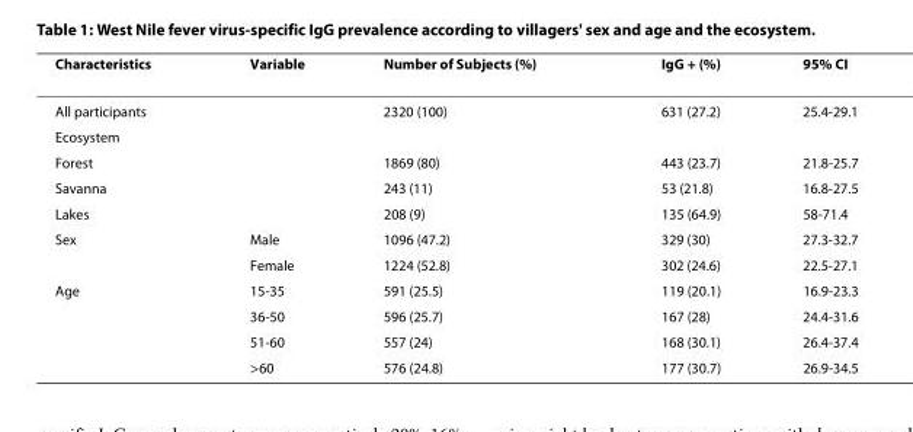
<table><thead><tr><td>Characteristics</td><td>Variable</td><td>Number of Subjects (%)</td><td>IgG + (%)</td><td>95% CI</td></tr></thead><tbody><tr><td>All participants</td><td></td><td>2320 (100)</td><td>631 (27.2)</td><td>25.4-29.1</td></tr><tr><td colspan="5">Ecosystem</td></tr><tr><td>Forest</td><td></td><td>1869 (80)</td><td>443 (23.7)</td><td>21.8-25.7</td></tr><tr><td>Savanna</td><td></td><td>243 (11)</td><td>53 (21.8)</td><td>16.8-27.5</td></tr><tr><td>Lakes</td><td></td><td>208 (9)</td><td>135 (64.9)</td><td>58-71.4</td></tr><tr><td rowspan="2">Sex</td><td>Male</td><td>1096 (47.2)</td><td>329 (30)</td><td>27.3-32.7</td></tr><tr><td>Female</td><td>1224 (52.8)</td><td>302 (24.6)</td><td>22.5-27.1</td></tr><tr><td rowspan="4">Age</td><td>15-35</td><td>591 (25.5)</td><td>119 (20.1)</td><td>16.9-23.3</td></tr><tr><td>36-50</td><td>596 (25.7)</td><td>167 (28)</td><td>24.4-31.6</td></tr><tr><td>51-60</td><td>557 (24)</td><td>168 (30.1)</td><td>26.4-37.4</td></tr><tr><td>&gt;60</td><td>576 (24.8)</td><td>177 (30.7)</td><td>26.9-34.5</td></tr></tbody></table>